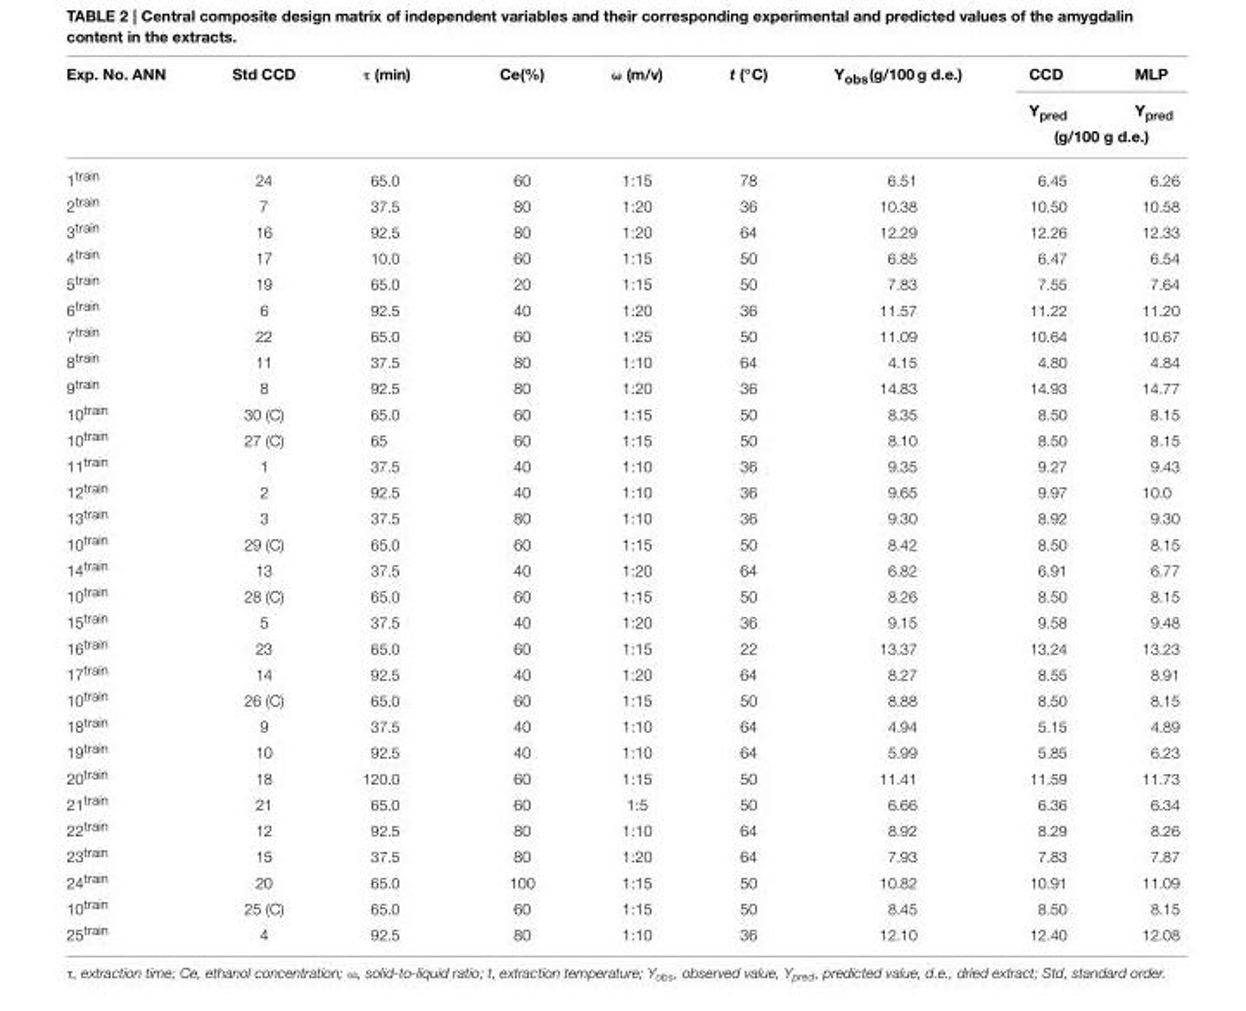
<table><thead><tr><td rowspan="3">Exp. No. ANN</td><td rowspan="3">Std CCD</td><td rowspan="3">τ (min)</td><td rowspan="3">Ce(%)</td><td rowspan="3">ω (m/v)</td><td rowspan="3">t (◦C)</td><td rowspan="3">Y<sub>obs</sub>(g/100 g d.e.)</td><td rowspan="2">CCD Y<sub>pred</sub></td><td rowspan="2">MLP Y<sub>pred</sub></td></tr><tr></tr><tr><td colspan="2">(g/100 g d.e.)</td></tr></thead><tbody><tr><td>1<sup>train</sup></td><td>24</td><td>65.0</td><td>60</td><td>1:15</td><td>78</td><td>6.51</td><td>6.45</td><td>6.26</td></tr><tr><td>2<sup>train</sup></td><td>7</td><td>37.5</td><td>80</td><td>1:20</td><td>36</td><td>10.38</td><td>10.50</td><td>10.58</td></tr><tr><td>3<sup>train</sup></td><td>16</td><td>92.5</td><td>80</td><td>1:20</td><td>64</td><td>12.29</td><td>12.26</td><td>12.33</td></tr><tr><td>4<sup>train</sup></td><td>17</td><td>10.0</td><td>60</td><td>1:15</td><td>50</td><td>6.85</td><td>6.47</td><td>6.54</td></tr><tr><td>5<sup>train</sup></td><td>19</td><td>65.0</td><td>20</td><td>1:15</td><td>50</td><td>7.83</td><td>7.55</td><td>7.64</td></tr><tr><td>6<sup>train</sup></td><td>6</td><td>92.5</td><td>40</td><td>1:20</td><td>36</td><td>11.57</td><td>11.22</td><td>11.20</td></tr><tr><td>7<sup>train</sup></td><td>22</td><td>65.0</td><td>60</td><td>1:25</td><td>50</td><td>11.09</td><td>10.64</td><td>10.67</td></tr><tr><td>8<sup>train</sup></td><td>11</td><td>37.5</td><td>80</td><td>1:10</td><td>64</td><td>4.15</td><td>4.80</td><td>4.84</td></tr><tr><td>9<sup>train</sup></td><td>8</td><td>92.5</td><td>80</td><td>1:20</td><td>36</td><td>14.83</td><td>14.93</td><td>14.77</td></tr><tr><td>10<sup>train</sup></td><td>30 (C)</td><td>65.0</td><td>60</td><td>1:15</td><td>50</td><td>8.35</td><td>8.50</td><td>8.15</td></tr><tr><td>10<sup>train</sup></td><td>27 (C)</td><td>65</td><td>60</td><td>1:15</td><td>50</td><td>8.10</td><td>8.50</td><td>8.15</td></tr><tr><td>11<sup>train</sup></td><td>1</td><td>37.5</td><td>40</td><td>1:10</td><td>36</td><td>9.35</td><td>9.27</td><td>9.43</td></tr><tr><td>12<sup>train</sup></td><td>2</td><td>92.5</td><td>40</td><td>1:10</td><td>36</td><td>9.65</td><td>9.97</td><td>10.0</td></tr><tr><td>13<sup>train</sup></td><td>3</td><td>37.5</td><td>80</td><td>1:10</td><td>36</td><td>9.30</td><td>8.92</td><td>9.30</td></tr><tr><td>10<sup>train</sup></td><td>29 (C)</td><td>65.0</td><td>60</td><td>1:15</td><td>50</td><td>8.42</td><td>8.50</td><td>8.15</td></tr><tr><td>14<sup>train</sup></td><td>13</td><td>37.5</td><td>40</td><td>1:20</td><td>64</td><td>6.82</td><td>6.91</td><td>6.77</td></tr><tr><td>10<sup>train</sup></td><td>28 (C)</td><td>65.0</td><td>60</td><td>1:15</td><td>50</td><td>8.26</td><td>8.50</td><td>8.15</td></tr><tr><td>15<sup>train</sup></td><td>5</td><td>37.5</td><td>40</td><td>1:20</td><td>36</td><td>9.15</td><td>9.58</td><td>9.48</td></tr><tr><td>16<sup>train</sup></td><td>23</td><td>65.0</td><td>60</td><td>1:15</td><td>22</td><td>13.37</td><td>13.24</td><td>13.23</td></tr><tr><td>17<sup>train</sup></td><td>14</td><td>92.5</td><td>40</td><td>1:20</td><td>64</td><td>8.27</td><td>8.55</td><td>8.91</td></tr><tr><td>10<sup>train</sup></td><td>26 (C)</td><td>65.0</td><td>60</td><td>1:15</td><td>50</td><td>8.88</td><td>8.50</td><td>8.15</td></tr><tr><td>18<sup>train</sup></td><td>9</td><td>37.5</td><td>40</td><td>1:10</td><td>64</td><td>4.94</td><td>5.15</td><td>4.89</td></tr><tr><td>19<sup>train</sup></td><td>10</td><td>92.5</td><td>40</td><td>1:10</td><td>64</td><td>5.99</td><td>5.85</td><td>6.23</td></tr><tr><td>20<sup>train</sup></td><td>18</td><td>120.0</td><td>60</td><td>1:15</td><td>50</td><td>11.41</td><td>11.59</td><td>11.73</td></tr><tr><td>21<sup>train</sup></td><td>21</td><td>65.0</td><td>60</td><td>1:5</td><td>50</td><td>6.66</td><td>6.36</td><td>6.34</td></tr><tr><td>22<sup>train</sup></td><td>12</td><td>92.5</td><td>80</td><td>1:10</td><td>64</td><td>8.92</td><td>8.29</td><td>8.26</td></tr><tr><td>23<sup>train</sup></td><td>15</td><td>37.5</td><td>80</td><td>1:20</td><td>64</td><td>7.93</td><td>7.83</td><td>7.87</td></tr><tr><td>24<sup>train</sup></td><td>20</td><td>65.0</td><td>100</td><td>1:15</td><td>50</td><td>10.82</td><td>10.91</td><td>11.09</td></tr><tr><td>10<sup>train</sup></td><td>25 (C)</td><td>65.0</td><td>60</td><td>1:15</td><td>50</td><td>8.45</td><td>8.50</td><td>8.15</td></tr><tr><td>25<sup>train</sup></td><td>4</td><td>92.5</td><td>80</td><td>1:10</td><td>36</td><td>12.10</td><td>12.40</td><td>12.08</td></tr></tbody></table>